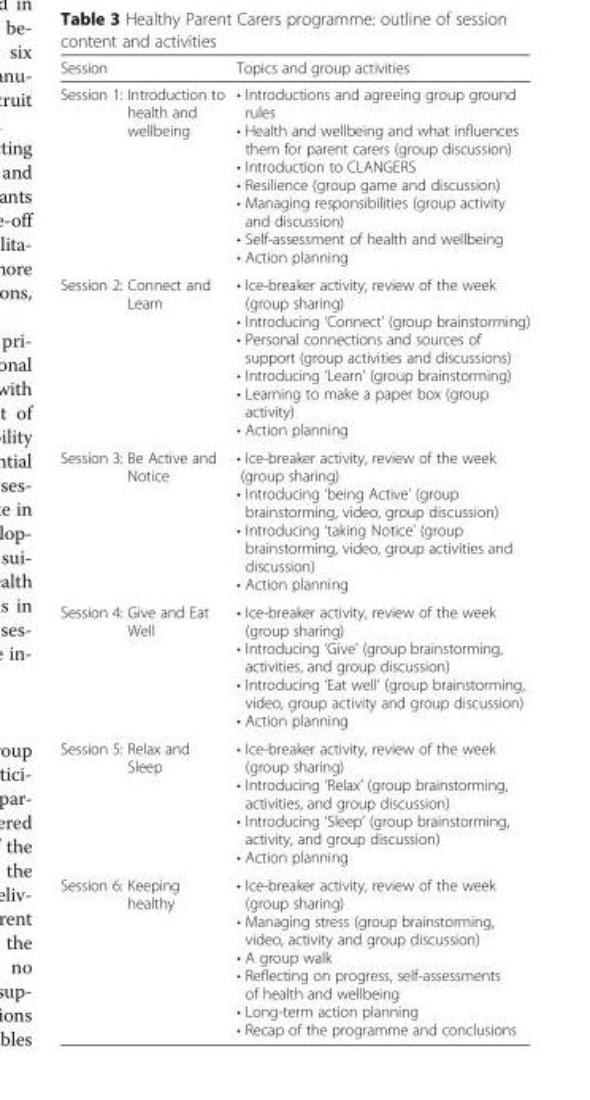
<table><thead><tr><td>Session</td><td>Topics and group activities</td></tr></thead><tbody><tr><td>Session 1: Introduction to health and wellbeing</td><td>• Introductions and agreeing group ground rules • Health and wellbeing and what influences them for parent carers (group discussion) • Introduction to CLANGERS • Resilience (group game and discussion) • Managing responsibilities (group activity and discussion) • Self-assessment of health and wellbeing • Action planning</td></tr><tr><td>Session 2: Connect and Learn</td><td>• Ice-breaker activity, review of the week (group sharing) • Introducing ‘Connect’ (group brainstorming) • Personal connections and sources of support (group activities and discussions) • Introducing ‘Learn’ (group brainstorming) • Learning to make a paper box (group activity) • Action planning</td></tr><tr><td>Session 3: Be Active and Notice</td><td>• Ice-breaker activity, review of the week (group sharing) • Introducing ‘being Active’ (group brainstorming, video, group discussion) • Introducing ‘taking Notice’ (group brainstorming, video, group activities and discussion) • Action planning</td></tr><tr><td>Session 4: Give and Eat Well</td><td>• Ice-breaker activity, review of the week (group sharing) • Introducing ‘Give’ (group brainstorming, activities, and group discussion) • Introducing ‘Eat well’ (group brainstorming, video, group activity and group discussion) • Action planning</td></tr><tr><td>Session 5: Relax and Sleep</td><td>• Ice-breaker activity, review of the week (group sharing) • Introducing ‘Relax’ (group brainstorming, activities, and group discussion) • Introducing ‘Sleep’ (group brainstorming, activity, and group discussion) • Action planning</td></tr><tr><td>Session 6: Keeping healthy</td><td>• Ice-breaker activity, review of the week (group sharing) • Managing stress (group brainstorming, video, activity and group discussion) • A group walk • Reflecting on progress, self-assessments of health and wellbeing • Long-term action planning • Recap of the programme and conclusions</td></tr></tbody></table>